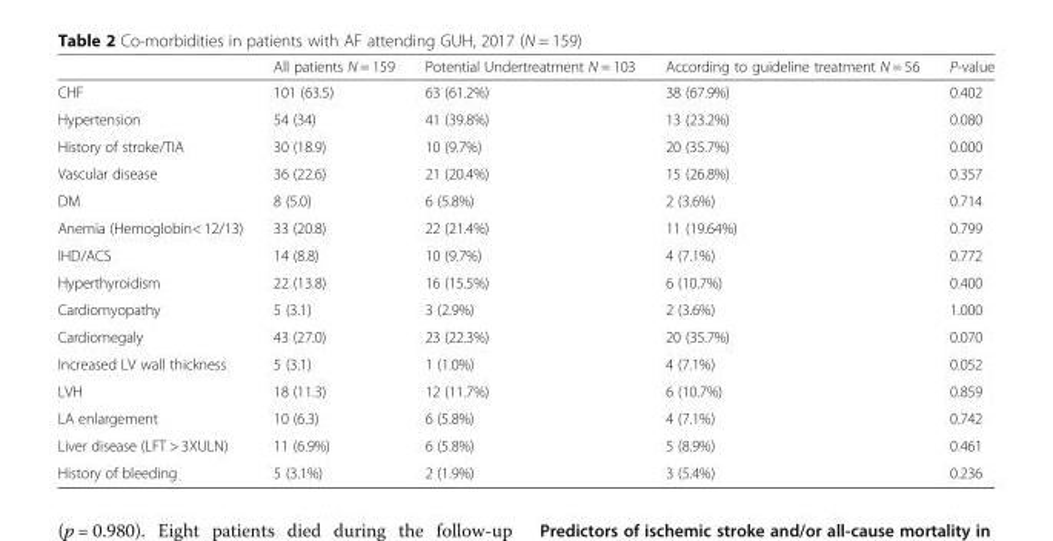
<table><thead><tr><td></td><td>All patients N = 159</td><td>Potential Undertreatment N = 103</td><td>According to guideline treatment N = 56</td><td>P-value</td></tr></thead><tbody><tr><td>CHF</td><td>101 (63.5)</td><td>63 (61.2%)</td><td>38 (67.9%)</td><td>0.402</td></tr><tr><td>Hypertension</td><td>54 (34)</td><td>41 (39.8%)</td><td>13 (23.2%)</td><td>0.080</td></tr><tr><td>History of stroke/TIA</td><td>30 (18.9)</td><td>10 (9.7%)</td><td>20 (35.7%)</td><td>0.000</td></tr><tr><td>Vascular disease</td><td>36 (22.6)</td><td>21 (20.4%)</td><td>15 (26.8%)</td><td>0.357</td></tr><tr><td>DM</td><td>8 (5.0)</td><td>6 (5.8%)</td><td>2 (3.6%)</td><td>0.714</td></tr><tr><td>Anemia (Hemoglobin&lt; 12/13)</td><td>33 (20.8)</td><td>22 (21.4%)</td><td>11 (19.64%)</td><td>0.799</td></tr><tr><td>IHD/ACS</td><td>14 (8.8)</td><td>10 (9.7%)</td><td>4 (7.1%)</td><td>0.772</td></tr><tr><td>Hyperthyroidism</td><td>22 (13.8)</td><td>16 (15.5%)</td><td>6 (10.7%)</td><td>0.400</td></tr><tr><td>Cardiomyopathy</td><td>5 (3.1)</td><td>3 (2.9%)</td><td>2 (3.6%)</td><td>1.000</td></tr><tr><td>Cardiomegaly</td><td>43 (27.0)</td><td>23 (22.3%)</td><td>20 (35.7%)</td><td>0.070</td></tr><tr><td>Increased LV wall thickness</td><td>5 (3.1)</td><td>1 (1.0%)</td><td>4 (7.1%)</td><td>0.052</td></tr><tr><td>LVH</td><td>18 (11.3)</td><td>12 (11.7%)</td><td>6 (10.7%)</td><td>0.859</td></tr><tr><td>LA enlargement</td><td>10 (6.3)</td><td>6 (5.8%)</td><td>4 (7.1%)</td><td>0.742</td></tr><tr><td>Liver disease (LFT &gt; 3XULN)</td><td>11 (6.9%)</td><td>6 (5.8%)</td><td>5 (8.9%)</td><td>0.461</td></tr><tr><td>History of bleeding</td><td>5 (3.1%)</td><td>2 (1.9%)</td><td>3 (5.4%)</td><td>0.236</td></tr></tbody></table>